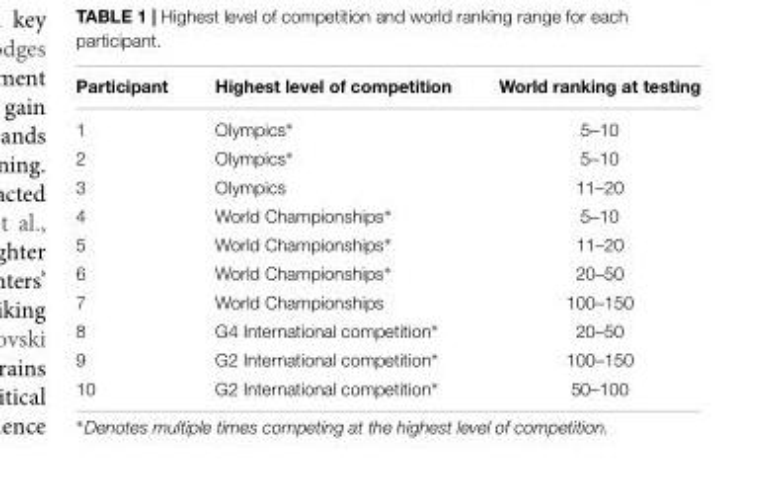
<table><thead><tr><td>Participant</td><td>Highest level of competition</td><td>World ranking at testing</td></tr></thead><tbody><tr><td>1</td><td>Olympics∗</td><td>5–10</td></tr><tr><td>2</td><td>Olympics∗</td><td>5–10</td></tr><tr><td>3</td><td>Olympics</td><td>11–20</td></tr><tr><td>4</td><td>World Championships∗</td><td>5–10</td></tr><tr><td>5</td><td>World Championships∗</td><td>11–20</td></tr><tr><td>6</td><td>World Championships∗</td><td>20–50</td></tr><tr><td>7</td><td>World Championships</td><td>100–150</td></tr><tr><td>8</td><td>G4 International competition∗</td><td>20–50</td></tr><tr><td>9</td><td>G2 International competition∗</td><td>100–150</td></tr><tr><td>10</td><td>G2 International competition∗</td><td>50–100</td></tr></tbody></table>